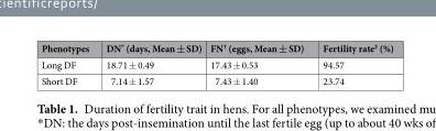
<table><thead><tr><td>Phenotypes</td><td>DN* (days, Mean ± SD)</td><td>FN<sup>†</sup> (eggs, Mean ± SD)</td><td>Fertility rate<sup>‡</sup> (%)</td></tr></thead><tbody><tr><td>Long DF</td><td>18.71 ± 0.49</td><td>17.43 ± 0.53</td><td>94.57</td></tr><tr><td>Short DF</td><td>7.14 ± 1.57</td><td>7.43 ± 1.40</td><td>23.74</td></tr></tbody></table>